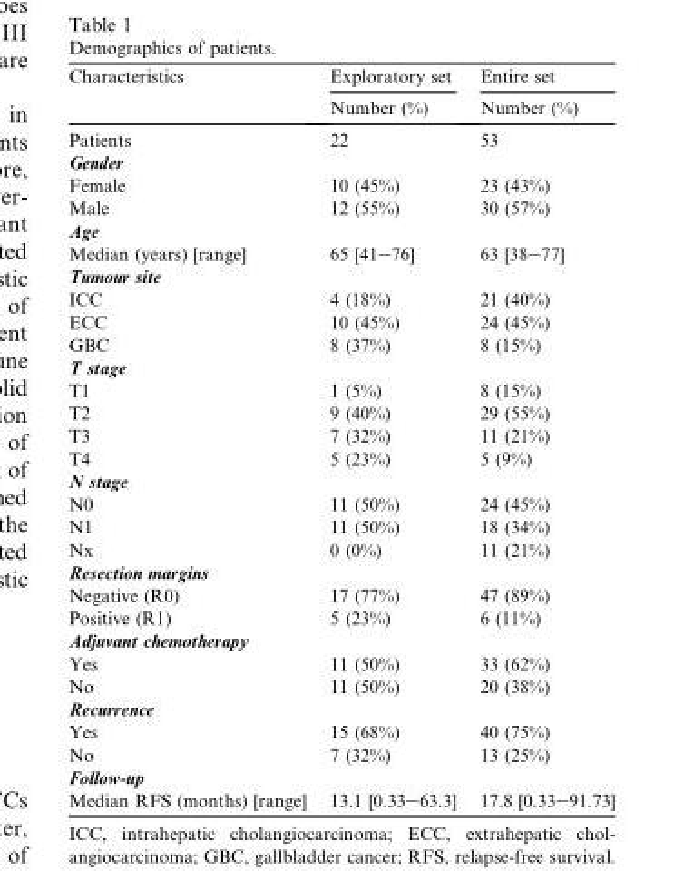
<table><thead><tr><td rowspan="2">Characteristics</td><td rowspan="2">Exploratory set Number (%)</td><td rowspan="2">Entire set Number (%)</td></tr><tr></tr></thead><tbody><tr><td>Patients</td><td>22</td><td>53</td></tr><tr><td colspan="3">Gender</td></tr><tr><td>Female</td><td>10 (45%)</td><td>23 (43%)</td></tr><tr><td>Male</td><td>12 (55%)</td><td>30 (57%)</td></tr><tr><td colspan="3">Age</td></tr><tr><td>Median (years) [range]</td><td>65 [41–76]</td><td>63 [38–77]</td></tr><tr><td colspan="3">Tumour site</td></tr><tr><td>ICC</td><td>4 (18%)</td><td>21 (40%)</td></tr><tr><td>ECC</td><td>10 (45%)</td><td>24 (45%)</td></tr><tr><td>GBC</td><td>8 (37%)</td><td>8 (15%)</td></tr><tr><td colspan="3">T stage</td></tr><tr><td>T1</td><td>1 (5%)</td><td>8 (15%)</td></tr><tr><td>T2</td><td>9 (40%)</td><td>29 (55%)</td></tr><tr><td>T3</td><td>7 (32%)</td><td>11 (21%)</td></tr><tr><td>T4</td><td>5 (23%)</td><td>5 (9%)</td></tr><tr><td colspan="3">N stage</td></tr><tr><td>N0</td><td>11 (50%)</td><td>24 (45%)</td></tr><tr><td>N1</td><td>11 (50%)</td><td>18 (34%)</td></tr><tr><td>Nx</td><td>0 (0%)</td><td>11 (21%)</td></tr><tr><td colspan="3">Resection margins</td></tr><tr><td>Negative (R0)</td><td>17 (77%)</td><td>47 (89%)</td></tr><tr><td>Positive (R1)</td><td>5 (23%)</td><td>6 (11%)</td></tr><tr><td colspan="3">Adjuvant chemotherapy</td></tr><tr><td>Yes</td><td>11 (50%)</td><td>33 (62%)</td></tr><tr><td>No</td><td>11 (50%)</td><td>20 (38%)</td></tr><tr><td colspan="3">Recurrence</td></tr><tr><td>Yes</td><td>15 (68%)</td><td>40 (75%)</td></tr><tr><td>No</td><td>7 (32%)</td><td>13 (25%)</td></tr><tr><td colspan="3">Follow-up</td></tr><tr><td>Median RFS (months) [range]</td><td>13.1 [0.33–63.3]</td><td>17.8 [0.33–91.73]</td></tr></tbody></table>